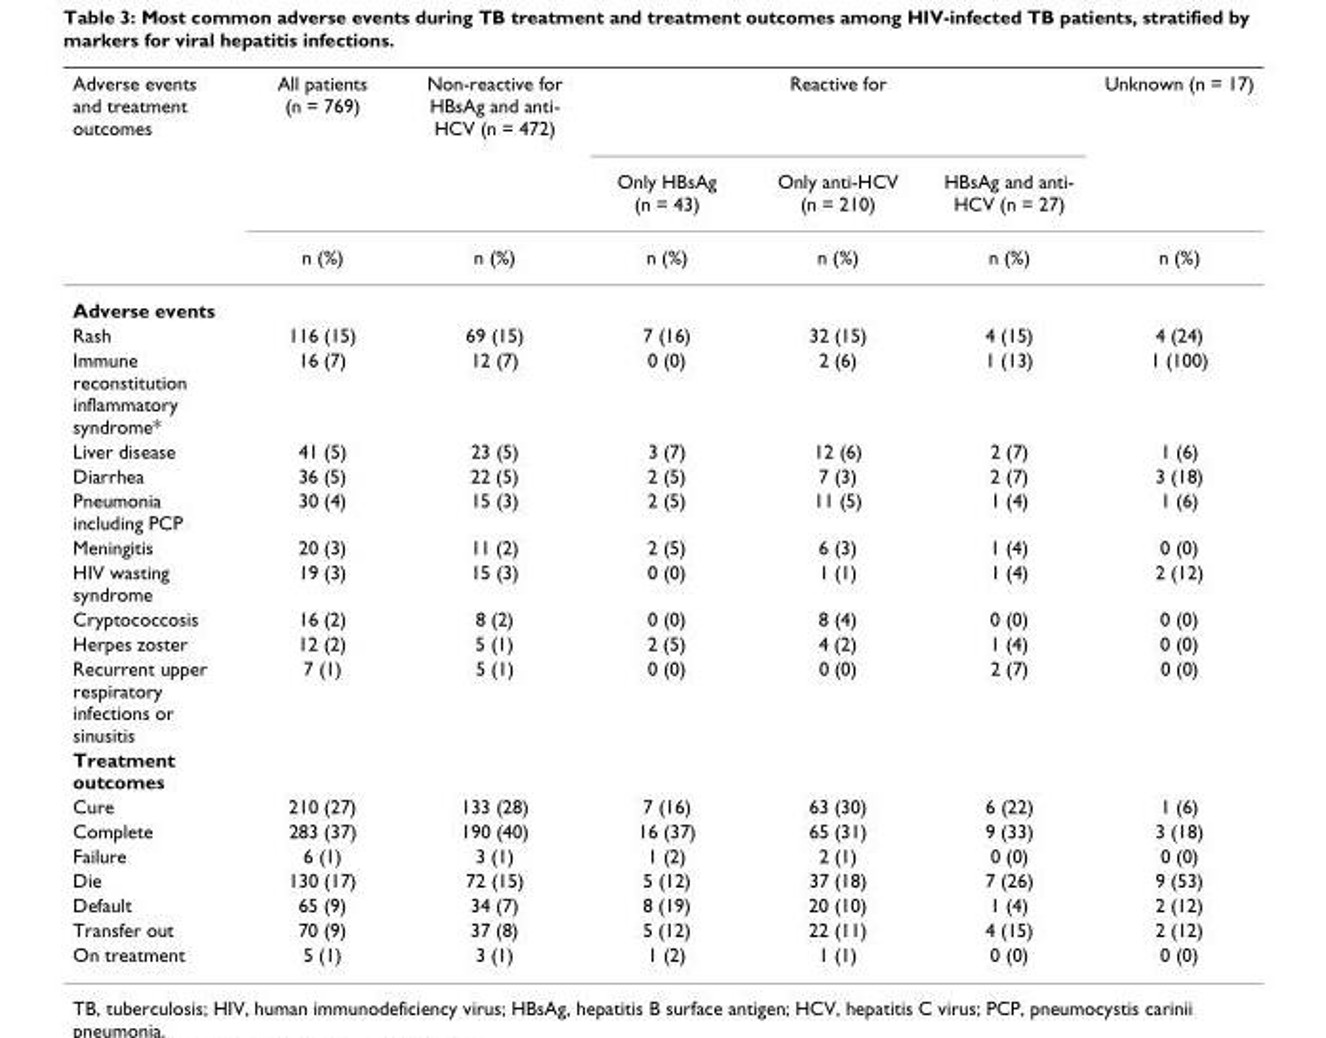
<table><thead><tr><td rowspan="3">Adverse events and treatment outcomes</td><td rowspan="3">All patients (n = 769) n (%)</td><td rowspan="3">Non-reactive for HBsAg and anti- HCV (n = 472) n (%)</td><td colspan="3">Reactive for</td><td rowspan="3">Unknown (n = 17) n (%)</td></tr><tr><td rowspan="2">Only HBsAg (n = 43) n (%)</td><td rowspan="2">Only anti-HCV (n = 210) n (%)</td><td rowspan="2">HBsAg and anti- HCV (n = 27) n (%)</td></tr><tr></tr></thead><tbody><tr><td colspan="7">Adverse events</td></tr><tr><td>Rash</td><td>116 (15)</td><td>69 (15)</td><td>7 (16)</td><td>32 (15)</td><td>4 (15)</td><td>4 (24)</td></tr><tr><td>Immune reconstitution inflammatory syndrome*</td><td>16 (7)</td><td>12 (7)</td><td>0 (0)</td><td>2 (6)</td><td>1 (13)</td><td>1 (100)</td></tr><tr><td>Liver disease</td><td>41 (5)</td><td>23 (5)</td><td>3 (7)</td><td>12 (6)</td><td>2 (7)</td><td>1 (6)</td></tr><tr><td>Diarrhea</td><td>36 (5)</td><td>22 (5)</td><td>2 (5)</td><td>7 (3)</td><td>2 (7)</td><td>3 (18)</td></tr><tr><td>Pneumonia including PCP</td><td>30 (4)</td><td>15 (3)</td><td>2 (5)</td><td>11 (5)</td><td>1 (4)</td><td>1 (6)</td></tr><tr><td>Meningitis</td><td>20 (3)</td><td>11 (2)</td><td>2 (5)</td><td>6 (3)</td><td>1 (4)</td><td>0 (0)</td></tr><tr><td>HIV wasting syndrome</td><td>19 (3)</td><td>15 (3)</td><td>0 (0)</td><td>1 (1)</td><td>1 (4)</td><td>2 (12)</td></tr><tr><td>Cryptococcosis</td><td>16 (2)</td><td>8 (2)</td><td>0 (0)</td><td>8 (4)</td><td>0 (0)</td><td>0 (0)</td></tr><tr><td>Herpes zoster</td><td>12 (2)</td><td>5 (1)</td><td>2 (5)</td><td>4 (2)</td><td>1 (4)</td><td>0 (0)</td></tr><tr><td>Recurrent upper respiratory infections or sinusitis</td><td>7 (1)</td><td>5 (1)</td><td>0 (0)</td><td>0 (0)</td><td>2 (7)</td><td>0 (0)</td></tr><tr><td colspan="7">Treatment outcomes</td></tr><tr><td>Cure</td><td>210 (27)</td><td>133 (28)</td><td>7 (16)</td><td>63 (30)</td><td>6 (22)</td><td>1 (6)</td></tr><tr><td>Complete</td><td>283 (37)</td><td>190 (40)</td><td>16 (37)</td><td>65 (31)</td><td>9 (33)</td><td>3 (18)</td></tr><tr><td>Failure</td><td>6 (1)</td><td>3 (1)</td><td>1 (2)</td><td>2 (1)</td><td>0 (0)</td><td>0 (0)</td></tr><tr><td>Die</td><td>130 (17)</td><td>72 (15)</td><td>5 (12)</td><td>37 (18)</td><td>7 (26)</td><td>9 (53)</td></tr><tr><td>Default</td><td>65 (9)</td><td>34 (7)</td><td>8 (19)</td><td>20 (10)</td><td>1 (4)</td><td>2 (12)</td></tr><tr><td>Transfer out</td><td>70 (9)</td><td>37 (8)</td><td>5 (12)</td><td>22 (11)</td><td>4 (15)</td><td>2 (12)</td></tr><tr><td>On treatment</td><td>5 (1)</td><td>3 (1)</td><td>1 (2)</td><td>1 (1)</td><td>0 (0)</td><td>0 (0)</td></tr></tbody></table>